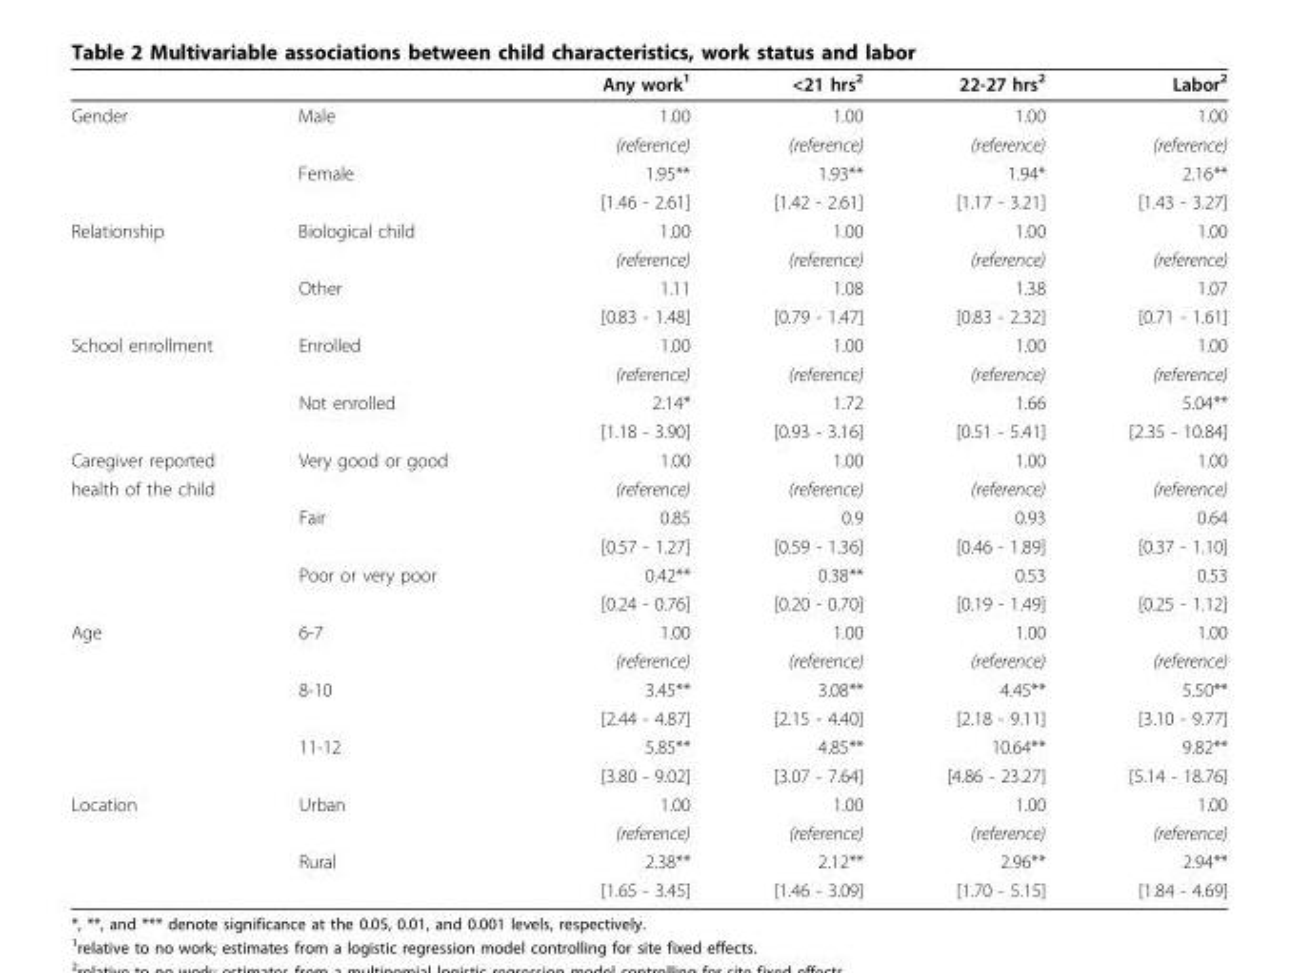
<table><thead><tr><td></td><td></td><td>Any work<sup>1</sup></td><td>&lt;21 hrs<sup>2</sup></td><td>22-27 hrs<sup>2</sup></td><td>Labor<sup>2</sup></td></tr></thead><tbody><tr><td rowspan="4">Gender</td><td>Male</td><td>1.00</td><td>1.00</td><td>1.00</td><td>1.00</td></tr><tr><td></td><td>(reference)</td><td>(reference)</td><td>(reference)</td><td>(reference)</td></tr><tr><td>Female</td><td>1.95**</td><td>1.93**</td><td>1.94*</td><td>2.16**</td></tr><tr><td></td><td>[1.46 - 2.61]</td><td>[1.42 - 2.61]</td><td>[1.17 - 3.21]</td><td>[1.43 - 3.27]</td></tr><tr><td rowspan="4">Relationship</td><td>Biological child</td><td>1.00</td><td>1.00</td><td>1.00</td><td>1.00</td></tr><tr><td></td><td>(reference)</td><td>(reference)</td><td>(reference)</td><td>(reference)</td></tr><tr><td>Other</td><td>1.11</td><td>1.08</td><td>1.38</td><td>1.07</td></tr><tr><td></td><td>[0.83 - 1.48]</td><td>[0.79 - 1.47]</td><td>[0.83 - 2.32]</td><td>[0.71 - 1.61]</td></tr><tr><td rowspan="4">School enrollment</td><td>Enrolled</td><td>1.00</td><td>1.00</td><td>1.00</td><td>1.00</td></tr><tr><td></td><td>(reference)</td><td>(reference)</td><td>(reference)</td><td>(reference)</td></tr><tr><td>Not enrolled</td><td>2.14*</td><td>1.72</td><td>1.66</td><td>5.04**</td></tr><tr><td></td><td>[1.18 - 3.90]</td><td>[0.93 - 3.16]</td><td>[0.51 - 5.41]</td><td>[2.35 - 10.84]</td></tr><tr><td>Caregiver reported</td><td>Very good or good</td><td>1.00</td><td>1.00</td><td>1.00</td><td>1.00</td></tr><tr><td rowspan="5">health of the child</td><td></td><td>(reference)</td><td>(reference)</td><td>(reference)</td><td>(reference)</td></tr><tr><td>Fair</td><td>0.85</td><td>0.9</td><td>0.93</td><td>0.64</td></tr><tr><td></td><td>[0.57 - 1.27]</td><td>[0.59 - 1.36]</td><td>[0.46 - 1.89]</td><td>[0.37 - 1.10]</td></tr><tr><td>Poor or very poor</td><td>0.42**</td><td>0.38**</td><td>0.53</td><td>0.53</td></tr><tr><td></td><td>[0.24 - 0.76]</td><td>[0.20 - 0.70]</td><td>[0.19 - 1.49]</td><td>[0.25 - 1.12]</td></tr><tr><td rowspan="6">Age</td><td>6-7</td><td>1.00</td><td>1.00</td><td>1.00</td><td>1.00</td></tr><tr><td></td><td>(reference)</td><td>(reference)</td><td>(reference)</td><td>(reference)</td></tr><tr><td>8-10</td><td>3.45**</td><td>3.08**</td><td>4.45**</td><td>5.50**</td></tr><tr><td></td><td>[2.44 - 4.87]</td><td>[2.15 - 4.40]</td><td>[2.18 - 9.11]</td><td>[3.10 - 9.77]</td></tr><tr><td>11-12</td><td>5.85**</td><td>4.85**</td><td>10.64**</td><td>9.82**</td></tr><tr><td></td><td>[3.80 - 9.02]</td><td>[3.07 - 7.64]</td><td>[4.86 - 23.27]</td><td>[5.14 - 18.76]</td></tr><tr><td rowspan="4">Location</td><td>Urban</td><td>1.00</td><td>1.00</td><td>1.00</td><td>1.00</td></tr><tr><td></td><td>(reference)</td><td>(reference)</td><td>(reference)</td><td>(reference)</td></tr><tr><td>Rural</td><td>2.38**</td><td>2.12**</td><td>2.96**</td><td>2.94**</td></tr><tr><td></td><td>[1.65 - 3.45]</td><td>[1.46 - 3.09]</td><td>[1.70 - 5.15]</td><td>[1.84 - 4.69]</td></tr></tbody></table>